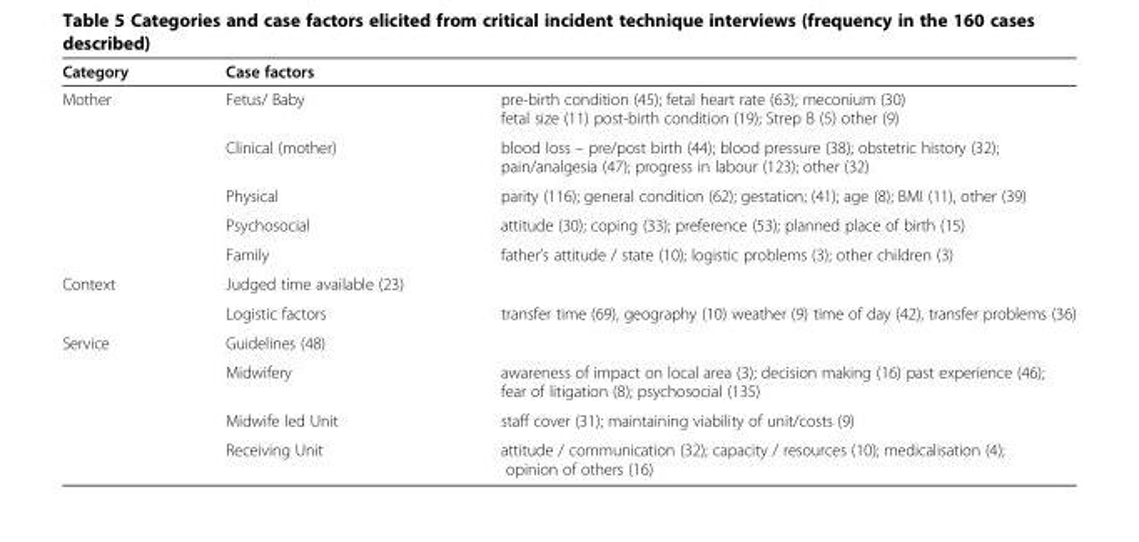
<table><thead><tr><td>Category</td><td>Case factors</td><td></td></tr></thead><tbody><tr><td rowspan="5">Mother</td><td>Fetus/ Baby</td><td>pre-birth condition (45); fetal heart rate (63); meconium (30) fetal size (11) post-birth condition (19); Strep B (5) other (9)</td></tr><tr><td>Clinical (mother)</td><td>blood loss – pre/post birth (44); blood pressure (38); obstetric history (32); pain/analgesia (47); progress in labour (123); other (32)</td></tr><tr><td>Physical</td><td>parity (116); general condition (62); gestation; (41); age (8); BMI (11), other (39)</td></tr><tr><td>Psychosocial</td><td>attitude (30); coping (33); preference (53); planned place of birth (15)</td></tr><tr><td>Family</td><td>father’s attitude / state (10); logistic problems (3); other children (3)</td></tr><tr><td rowspan="2">Context</td><td>Judged time available (23)</td><td></td></tr><tr><td>Logistic factors</td><td>transfer time (69), geography (10) weather (9) time of day (42), transfer problems (36)</td></tr><tr><td rowspan="4">Service</td><td>Guidelines (48)</td><td></td></tr><tr><td>Midwifery</td><td>awareness of impact on local area (3); decision making (16) past experience (46); fear of litigation (8); psychosocial (135)</td></tr><tr><td>Midwife led Unit</td><td>staff cover (31); maintaining viability of unit/costs (9)</td></tr><tr><td>Receiving Unit</td><td>attitude / communication (32); capacity / resources (10); medicalisation (4); opinion of others (16)</td></tr></tbody></table>